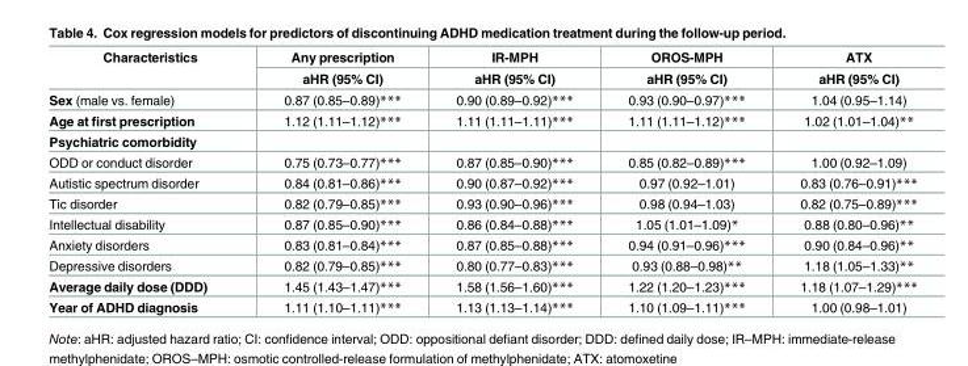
<table><thead><tr><td rowspan="2">Characteristics</td><td rowspan="2">Any prescription aHR (95% CI)</td><td rowspan="2">IR-MPH aHR (95% CI)</td><td rowspan="2">OROS-MPH aHR (95% CI)</td><td rowspan="2">ATX aHR (95% CI)</td></tr><tr></tr></thead><tbody><tr><td>Sex (male vs. female)</td><td>0.87 (0.85–0.89)***</td><td>0.90 (0.89–0.92)***</td><td>0.93 (0.90–0.97)***</td><td>1.04 (0.95–1.14)</td></tr><tr><td>Age at first prescription</td><td>1.12 (1.11–1.12)***</td><td>1.11 (1.11–1.11)***</td><td>1.11 (1.11–1.12)***</td><td>1.02 (1.01–1.04)**</td></tr><tr><td colspan="5">Psychiatric comorbidity</td></tr><tr><td>ODD or conduct disorder</td><td>0.75 (0.73–0.77)***</td><td>0.87 (0.85–0.90)***</td><td>0.85 (0.82–0.89)***</td><td>1.00 (0.92–1.09)</td></tr><tr><td>Autistic spectrum disorder</td><td>0.84 (0.81–0.86)***</td><td>0.90 (0.87–0.92)***</td><td>0.97 (0.92–1.01)</td><td>0.83 (0.76–0.91)***</td></tr><tr><td>Tic disorder</td><td>0.82 (0.79–0.85)***</td><td>0.93 (0.90–0.96)***</td><td>0.98 (0.94–1.03)</td><td>0.82 (0.75–0.89)***</td></tr><tr><td>Intellectual disability</td><td>0.87 (0.85–0.90)***</td><td>0.86 (0.84–0.88)***</td><td>1.05 (1.01–1.09)*</td><td>0.88 (0.80–0.96)**</td></tr><tr><td>Anxiety disorders</td><td>0.83 (0.81–0.84)***</td><td>0.87 (0.85–0.88)***</td><td>0.94 (0.91–0.96)***</td><td>0.90 (0.84–0.96)**</td></tr><tr><td>Depressive disorders</td><td>0.82 (0.79–0.85)***</td><td>0.80 (0.77–0.83)***</td><td>0.93 (0.88–0.98)**</td><td>1.18 (1.05–1.33)**</td></tr><tr><td>Average daily dose (DDD)</td><td>1.45 (1.43–1.47)***</td><td>1.58 (1.56–1.60)***</td><td>1.22 (1.20–1.23)***</td><td>1.18 (1.07–1.29)***</td></tr><tr><td>Year of ADHD diagnosis</td><td>1.11 (1.10–1.11)***</td><td>1.13 (1.13–1.14)***</td><td>1.10 (1.09–1.11)***</td><td>1.00 (0.98–1.01)</td></tr></tbody></table>